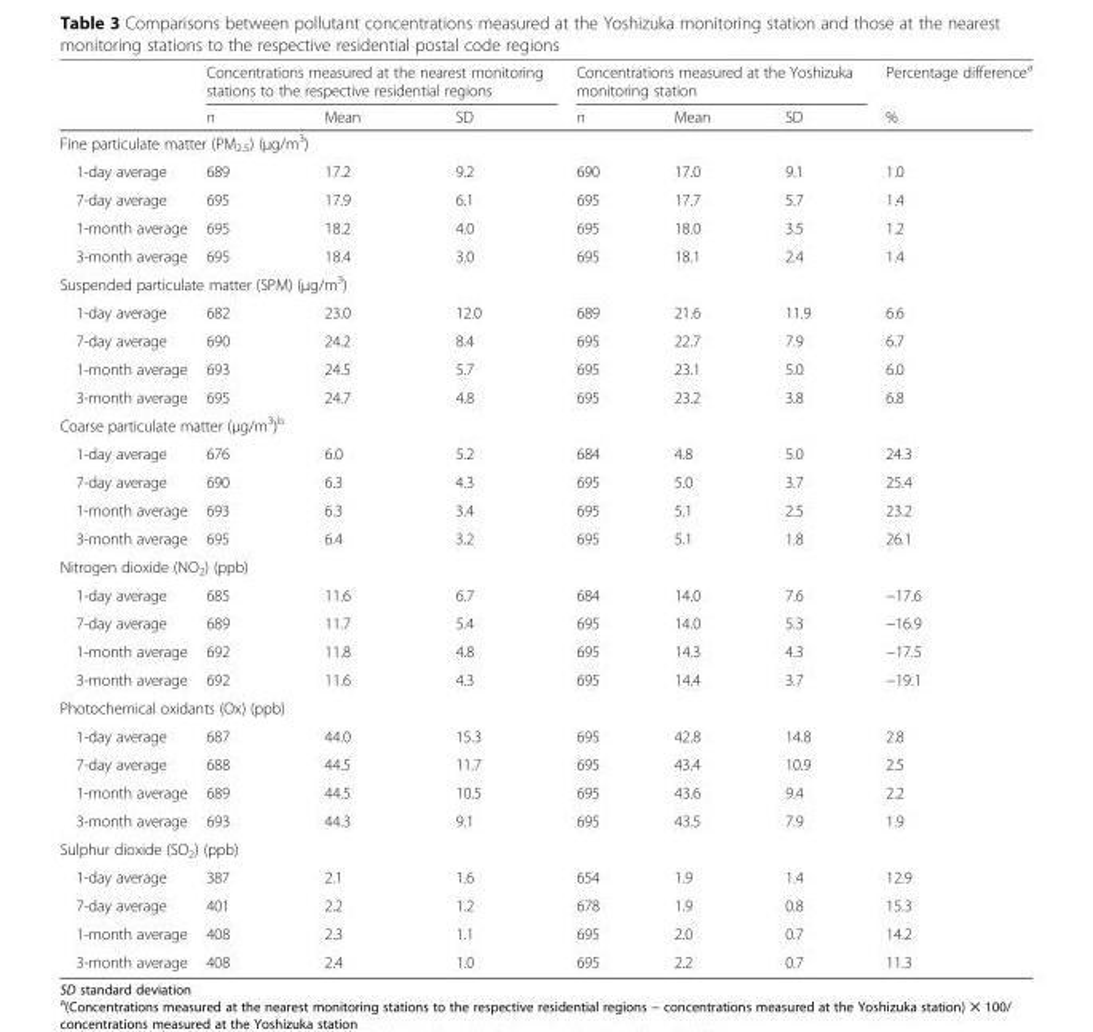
<table><thead><tr><td rowspan="2"></td><td colspan="3">Concentrations measured at the nearest monitoring stations to the respective residential regions</td><td colspan="3">Concentrations measured at the Yoshizuka monitoring station</td><td rowspan="2">Percentage difference<sup>a</sup> %</td></tr><tr><td>n</td><td>Mean</td><td>SD</td><td>n</td><td>Mean</td><td>SD</td></tr></thead><tbody><tr><td colspan="8">Fine particulate matter (PM<sub>2.5</sub>) (μg/m<sup>3</sup>)</td></tr><tr><td>1-day average</td><td>689</td><td>17.2</td><td>9.2</td><td>690</td><td>17.0</td><td>9.1</td><td>1.0</td></tr><tr><td>7-day average</td><td>695</td><td>17.9</td><td>6.1</td><td>695</td><td>17.7</td><td>5.7</td><td>1.4</td></tr><tr><td>1-month average</td><td>695</td><td>18.2</td><td>4.0</td><td>695</td><td>18.0</td><td>3.5</td><td>1.2</td></tr><tr><td>3-month average</td><td>695</td><td>18.4</td><td>3.0</td><td>695</td><td>18.1</td><td>2.4</td><td>1.4</td></tr><tr><td colspan="8">Suspended particulate matter (SPM) (μg/m<sup>3</sup>)</td></tr><tr><td>1-day average</td><td>682</td><td>23.0</td><td>12.0</td><td>689</td><td>21.6</td><td>11.9</td><td>6.6</td></tr><tr><td>7-day average</td><td>690</td><td>24.2</td><td>8.4</td><td>695</td><td>22.7</td><td>7.9</td><td>6.7</td></tr><tr><td>1-month average</td><td>693</td><td>24.5</td><td>5.7</td><td>695</td><td>23.1</td><td>5.0</td><td>6.0</td></tr><tr><td>3-month average</td><td>695</td><td>24.7</td><td>4.8</td><td>695</td><td>23.2</td><td>3.8</td><td>6.8</td></tr><tr><td colspan="8">Coarse particulate matter (μg/m<sup>3</sup>)<sup>b</sup></td></tr><tr><td>1-day average</td><td>676</td><td>6.0</td><td>5.2</td><td>684</td><td>4.8</td><td>5.0</td><td>24.3</td></tr><tr><td>7-day average</td><td>690</td><td>6.3</td><td>4.3</td><td>695</td><td>5.0</td><td>3.7</td><td>25.4</td></tr><tr><td>1-month average</td><td>693</td><td>6.3</td><td>3.4</td><td>695</td><td>5.1</td><td>2.5</td><td>23.2</td></tr><tr><td>3-month average</td><td>695</td><td>6.4</td><td>3.2</td><td>695</td><td>5.1</td><td>1.8</td><td>26.1</td></tr><tr><td colspan="8">Nitrogen dioxide (NO<sub>2</sub>) (ppb)</td></tr><tr><td>1-day average</td><td>685</td><td>11.6</td><td>6.7</td><td>684</td><td>14.0</td><td>7.6</td><td>−17.6</td></tr><tr><td>7-day average</td><td>689</td><td>11.7</td><td>5.4</td><td>695</td><td>14.0</td><td>5.3</td><td>−16.9</td></tr><tr><td>1-month average</td><td>692</td><td>11.8</td><td>4.8</td><td>695</td><td>14.3</td><td>4.3</td><td>−17.5</td></tr><tr><td>3-month average</td><td>692</td><td>11.6</td><td>4.3</td><td>695</td><td>14.4</td><td>3.7</td><td>−19.1</td></tr><tr><td colspan="8">Photochemical oxidants (Ox) (ppb)</td></tr><tr><td>1-day average</td><td>687</td><td>44.0</td><td>15.3</td><td>695</td><td>42.8</td><td>14.8</td><td>2.8</td></tr><tr><td>7-day average</td><td>688</td><td>44.5</td><td>11.7</td><td>695</td><td>43.4</td><td>10.9</td><td>2.5</td></tr><tr><td>1-month average</td><td>689</td><td>44.5</td><td>10.5</td><td>695</td><td>43.6</td><td>9.4</td><td>2.2</td></tr><tr><td>3-month average</td><td>693</td><td>44.3</td><td>9.1</td><td>695</td><td>43.5</td><td>7.9</td><td>1.9</td></tr><tr><td colspan="8">Sulphur dioxide (SO<sub>2</sub>) (ppb)</td></tr><tr><td>1-day average</td><td>387</td><td>2.1</td><td>1.6</td><td>654</td><td>1.9</td><td>1.4</td><td>12.9</td></tr><tr><td>7-day average</td><td>401</td><td>2.2</td><td>1.2</td><td>678</td><td>1.9</td><td>0.8</td><td>15.3</td></tr><tr><td>1-month average</td><td>408</td><td>2.3</td><td>1.1</td><td>695</td><td>2.0</td><td>0.7</td><td>14.2</td></tr><tr><td>3-month average</td><td>408</td><td>2.4</td><td>1.0</td><td>695</td><td>2.2</td><td>0.7</td><td>11.3</td></tr></tbody></table>